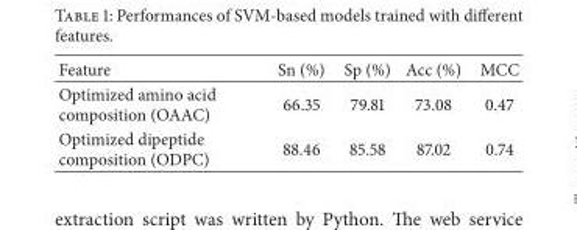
<table><thead><tr><td>Feature</td><td>Sn (%)</td><td>Sp (%)</td><td>Acc (%)</td><td>MCC</td></tr></thead><tbody><tr><td>Optimized amino acid composition (OAAC)</td><td>66.35</td><td>79.81</td><td>73.08</td><td>0.47</td></tr><tr><td>Optimized dipeptide composition (ODPC)</td><td>88.46</td><td>85.58</td><td>87.02</td><td>0.74</td></tr></tbody></table>